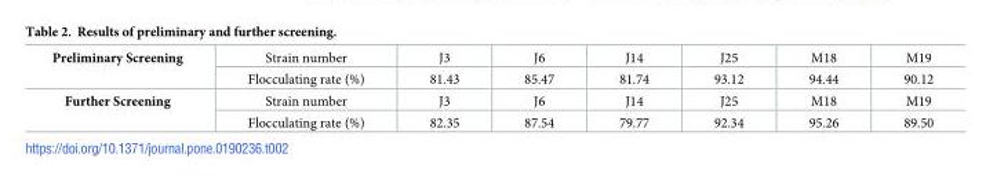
<table><tbody><tr><td rowspan="2">Preliminary Screening</td><td>Strain number</td><td>J3</td><td>J6</td><td>J14</td><td>J25</td><td>M18</td><td>M19</td></tr><tr><td>Flocculating rate (%)</td><td>81.43</td><td>85.47</td><td>81.74</td><td>93.12</td><td>94.44</td><td>90.12</td></tr><tr><td rowspan="2">Further Screening</td><td>Strain number</td><td>J3</td><td>J6</td><td>J14</td><td>J25</td><td>M18</td><td>M19</td></tr><tr><td>Flocculating rate (%)</td><td>82.35</td><td>87.54</td><td>79.77</td><td>92.34</td><td>95.26</td><td>89.50</td></tr></tbody></table>